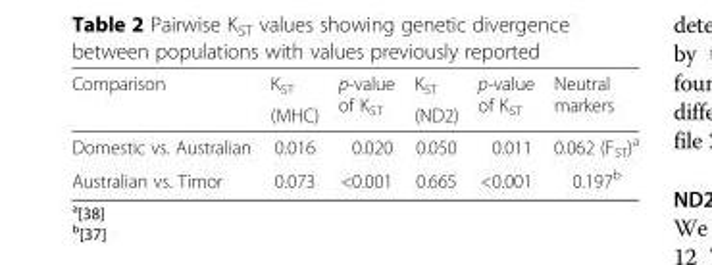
<table><thead><tr><td rowspan="2">Comparison</td><td rowspan="2">K<sub>ST</sub> (MHC)</td><td rowspan="2">p-value of K<sub>ST</sub></td><td rowspan="2">K<sub>ST</sub> (ND2)</td><td rowspan="2">p-value of K<sub>ST</sub></td><td rowspan="2">Neutral markers</td></tr><tr></tr></thead><tbody><tr><td>Domestic vs. Australian</td><td>0.016</td><td>0.020</td><td>0.050</td><td>0.011</td><td>0.062 (F<sub>ST</sub>)<sup>a</sup></td></tr><tr><td>Australian vs. Timor</td><td>0.073</td><td>&lt;0.001</td><td>0.665</td><td>&lt;0.001</td><td>0.197<sup>b</sup></td></tr></tbody></table>